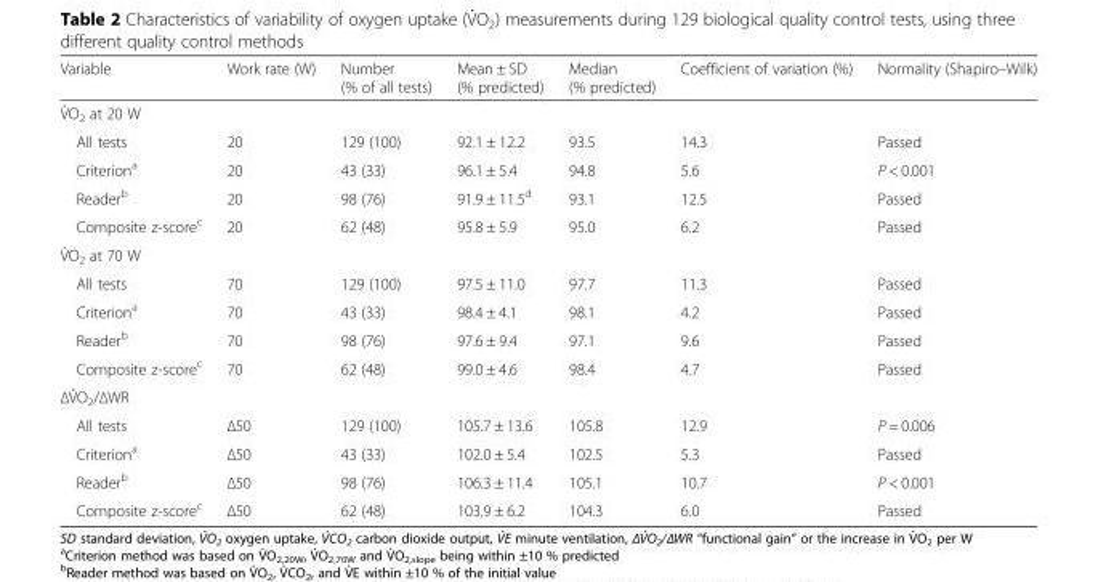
<table><thead><tr><td>Variable</td><td>Work rate (W)</td><td>Number (% of all tests)</td><td>Mean ± SD (% predicted)</td><td>Median (% predicted)</td><td>Coefficient of variation (%)</td><td>Normality (Shapiro–Wilk)</td></tr></thead><tbody><tr><td colspan="7">V̇O<sub>2</sub> at 20 W</td></tr><tr><td>All tests</td><td>20</td><td>129 (100)</td><td>92.1 ± 12.2</td><td>93.5</td><td>14.3</td><td>Passed</td></tr><tr><td>Criterion<sup>a</sup></td><td>20</td><td>43 (33)</td><td>96.1 ± 5.4</td><td>94.8</td><td>5.6</td><td>P &lt; 0.001</td></tr><tr><td>Reader<sup>b</sup></td><td>20</td><td>98 (76)</td><td>91.9 ± 11.5<sup>d</sup></td><td>93.1</td><td>12.5</td><td>Passed</td></tr><tr><td>Composite z-score<sup>c</sup></td><td>20</td><td>62 (48)</td><td>95.8 ± 5.9</td><td>95.0</td><td>6.2</td><td>Passed</td></tr><tr><td colspan="7">V̇O<sub>2</sub> at 70 W</td></tr><tr><td>All tests</td><td>70</td><td>129 (100)</td><td>97.5 ± 11.0</td><td>97.7</td><td>11.3</td><td>Passed</td></tr><tr><td>Criterion<sup>a</sup></td><td>70</td><td>43 (33)</td><td>98.4 ± 4.1</td><td>98.1</td><td>4.2</td><td>Passed</td></tr><tr><td>Reader<sup>b</sup></td><td>70</td><td>98 (76)</td><td>97.6 ± 9.4</td><td>97.1</td><td>9.6</td><td>Passed</td></tr><tr><td>Composite z-score<sup>c</sup></td><td>70</td><td>62 (48)</td><td>99.0 ± 4.6</td><td>98.4</td><td>4.7</td><td>Passed</td></tr><tr><td colspan="7">ΔV̇O2/ΔWR</td></tr><tr><td>All tests</td><td>Δ50</td><td>129 (100)</td><td>105.7 ± 13.6</td><td>105.8</td><td>12.9</td><td>P = 0.006</td></tr><tr><td>Criterion<sup>a</sup></td><td>Δ50</td><td>43 (33)</td><td>102.0 ± 5.4</td><td>102.5</td><td>5.3</td><td>Passed</td></tr><tr><td>Reader<sup>b</sup></td><td>Δ50</td><td>98 (76)</td><td>106.3 ± 11.4</td><td>105.1</td><td>10.7</td><td>P &lt; 0.001</td></tr><tr><td>Composite z-score<sup>c</sup></td><td>Δ50</td><td>62 (48)</td><td>103.9 ± 6.2</td><td>104.3</td><td>6.0</td><td>Passed</td></tr></tbody></table>